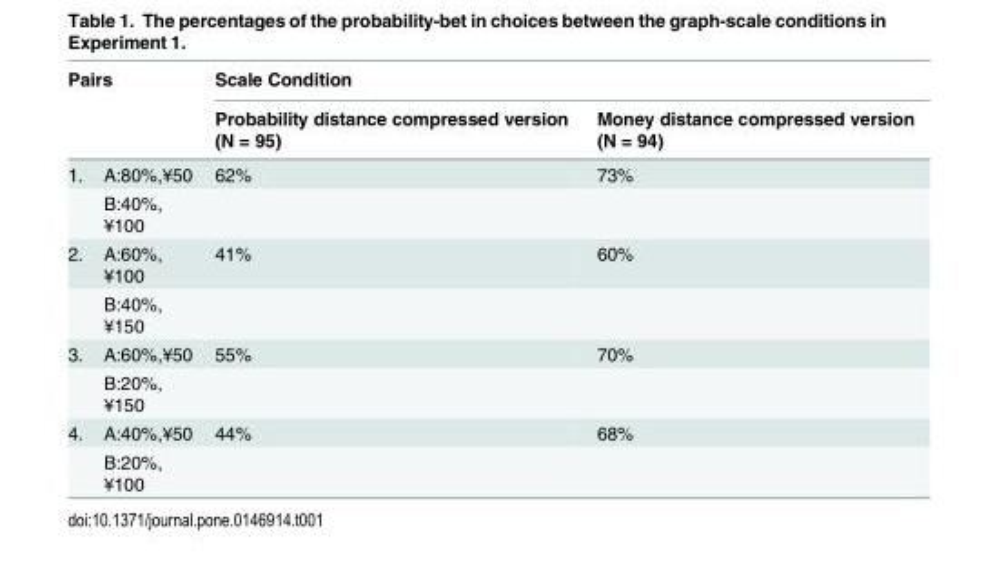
<table><thead><tr><td rowspan="2" colspan="2">Pairs</td><td colspan="2">Scale Condition</td></tr><tr><td rowspan="2">Probability distance compressed version (N = 95) 62%</td><td rowspan="2">Money distance compressed version (N = 94) 73%</td></tr><tr><td>1.</td><td>A:80%,¥50</td></tr></thead><tbody><tr><td></td><td>B:40%, ¥100</td><td></td><td></td></tr><tr><td rowspan="2">2.</td><td>A:60%, ¥100</td><td>41%</td><td>60%</td></tr><tr><td>B:40%, ¥150</td><td></td><td></td></tr><tr><td rowspan="2">3.</td><td>A:60%,¥50</td><td>55%</td><td>70%</td></tr><tr><td>B:20%, ¥150</td><td></td><td></td></tr><tr><td rowspan="2">4.</td><td>A:40%,¥50</td><td>44%</td><td>68%</td></tr><tr><td>B:20%, ¥100</td><td></td><td></td></tr></tbody></table>